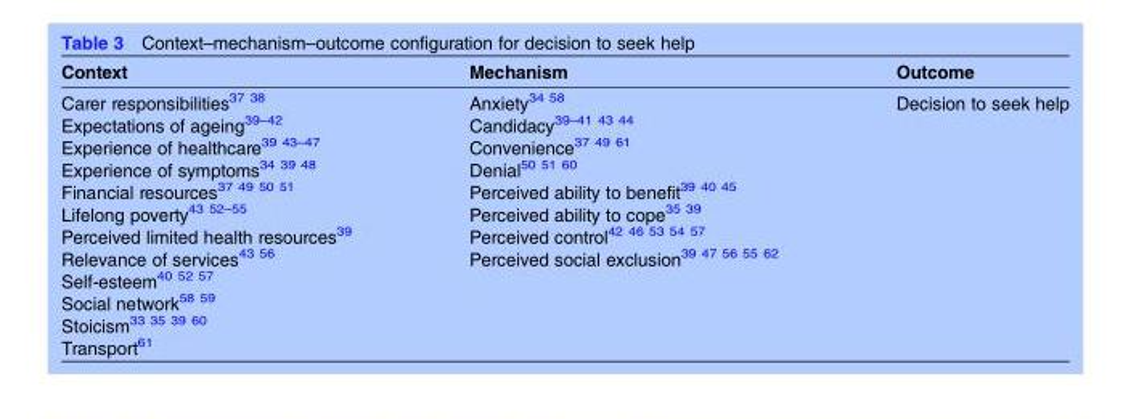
<table><thead><tr><td>Context</td><td>Mechanism</td><td>Outcome</td></tr></thead><tbody><tr><td>Carer responsibilities<sup>37 38</sup> Expectations of ageing<sup>39–42</sup> Experience of healthcare<sup>39 43–47</sup> Experience of symptoms<sup>34 39 48</sup> Financial resources<sup>37 49 50 51</sup> Lifelong poverty<sup>43 52–55</sup> Perceived limited health resources<sup>39</sup> Relevance of services<sup>43 56</sup> Self-esteem<sup>40 52 57</sup> Social network<sup>58 59</sup> Stoicism<sup>33 35 39 60</sup> Transport<sup>61</sup></td><td>Anxiety<sup>34 58</sup> Candidacy<sup>39–41 43 44</sup> Convenience<sup>37 49 61</sup> Denial<sup>50 51 60</sup> Perceived ability to benefit<sup>39 40 45</sup> Perceived ability to cope<sup>35 39</sup> Perceived control<sup>42 46 53 54 57</sup> Perceived social exclusion<sup>39 47 56 55 62</sup></td><td>Decision to seek help</td></tr></tbody></table>